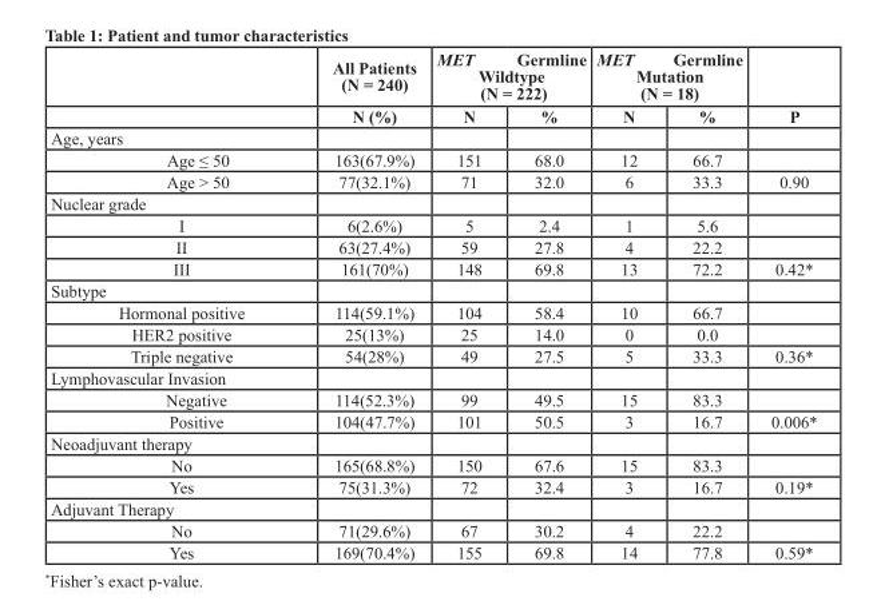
<table><thead><tr><td rowspan="2"></td><td rowspan="2">All Patients (N = 240) N (%)</td><td colspan="2">MET Germline Wildtype (N = 222)</td><td colspan="2">MET Germline Mutation (N = 18)</td><td rowspan="2">P</td></tr><tr><td>N</td><td>%</td><td>N</td><td>%</td></tr></thead><tbody><tr><td colspan="7">Age, years</td></tr><tr><td>Age ≤ 50</td><td>163(67.9%)</td><td>151</td><td>68.0</td><td>12</td><td>66.7</td><td></td></tr><tr><td>Age &gt; 50</td><td>77(32.1%)</td><td>71</td><td>32.0</td><td>6</td><td>33.3</td><td>0.90</td></tr><tr><td colspan="7">Nuclear grade</td></tr><tr><td>I</td><td>6(2.6%)</td><td>5</td><td>2.4</td><td>1</td><td>5.6</td><td></td></tr><tr><td>II</td><td>63(27.4%)</td><td>59</td><td>27.8</td><td>4</td><td>22.2</td><td></td></tr><tr><td>III</td><td>161(70%)</td><td>148</td><td>69.8</td><td>13</td><td>72.2</td><td>0.42*</td></tr><tr><td colspan="7">Subtype</td></tr><tr><td>Hormonal positive</td><td>114(59.1%)</td><td>104</td><td>58.4</td><td>10</td><td>66.7</td><td></td></tr><tr><td>HER2 positive</td><td>25(13%)</td><td>25</td><td>14.0</td><td>0</td><td>0.0</td><td></td></tr><tr><td>Triple negative</td><td>54(28%)</td><td>49</td><td>27.5</td><td>5</td><td>33.3</td><td>0.36*</td></tr><tr><td colspan="7">Lymphovascular Invasion</td></tr><tr><td>Negative</td><td>114(52.3%)</td><td>99</td><td>49.5</td><td>15</td><td>83.3</td><td></td></tr><tr><td>Positive</td><td>104(47.7%)</td><td>101</td><td>50.5</td><td>3</td><td>16.7</td><td>0.006*</td></tr><tr><td colspan="7">Neoadjuvant therapy</td></tr><tr><td>No</td><td>165(68.8%)</td><td>150</td><td>67.6</td><td>15</td><td>83.3</td><td></td></tr><tr><td>Yes</td><td>75(31.3%)</td><td>72</td><td>32.4</td><td>3</td><td>16.7</td><td>0.19*</td></tr><tr><td colspan="7">Adjuvant Therapy</td></tr><tr><td>No</td><td>71(29.6%)</td><td>67</td><td>30.2</td><td>4</td><td>22.2</td><td></td></tr><tr><td>Yes</td><td>169(70.4%)</td><td>155</td><td>69.8</td><td>14</td><td>77.8</td><td>0.59*</td></tr></tbody></table>